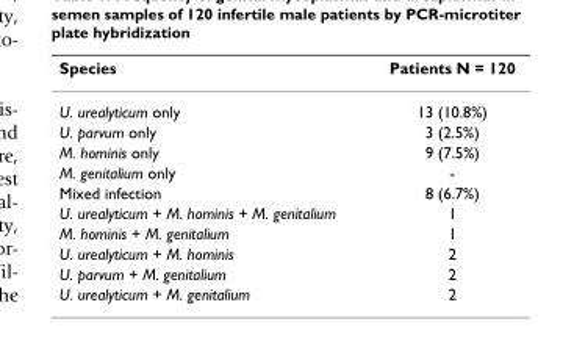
<table><thead><tr><td>Species</td><td>Patients N = 120</td></tr></thead><tbody><tr><td>U. urealyticum only</td><td>13 (10.8%)</td></tr><tr><td>U. parvum only</td><td>3 (2.5%)</td></tr><tr><td>M. hominis only</td><td>9 (7.5%)</td></tr><tr><td>M. genitalium only</td><td>-</td></tr><tr><td>Mixed infection</td><td>8 (6.7%)</td></tr><tr><td>U. urealyticum + M. hominis + M. genitalium</td><td>1</td></tr><tr><td>M. hominis + M. genitalium</td><td>1</td></tr><tr><td>U. urealyticum + M. hominis</td><td>2</td></tr><tr><td>U. parvum + M. genitalium</td><td>2</td></tr><tr><td>U. urealyticum + M. genitalium</td><td>2</td></tr></tbody></table>